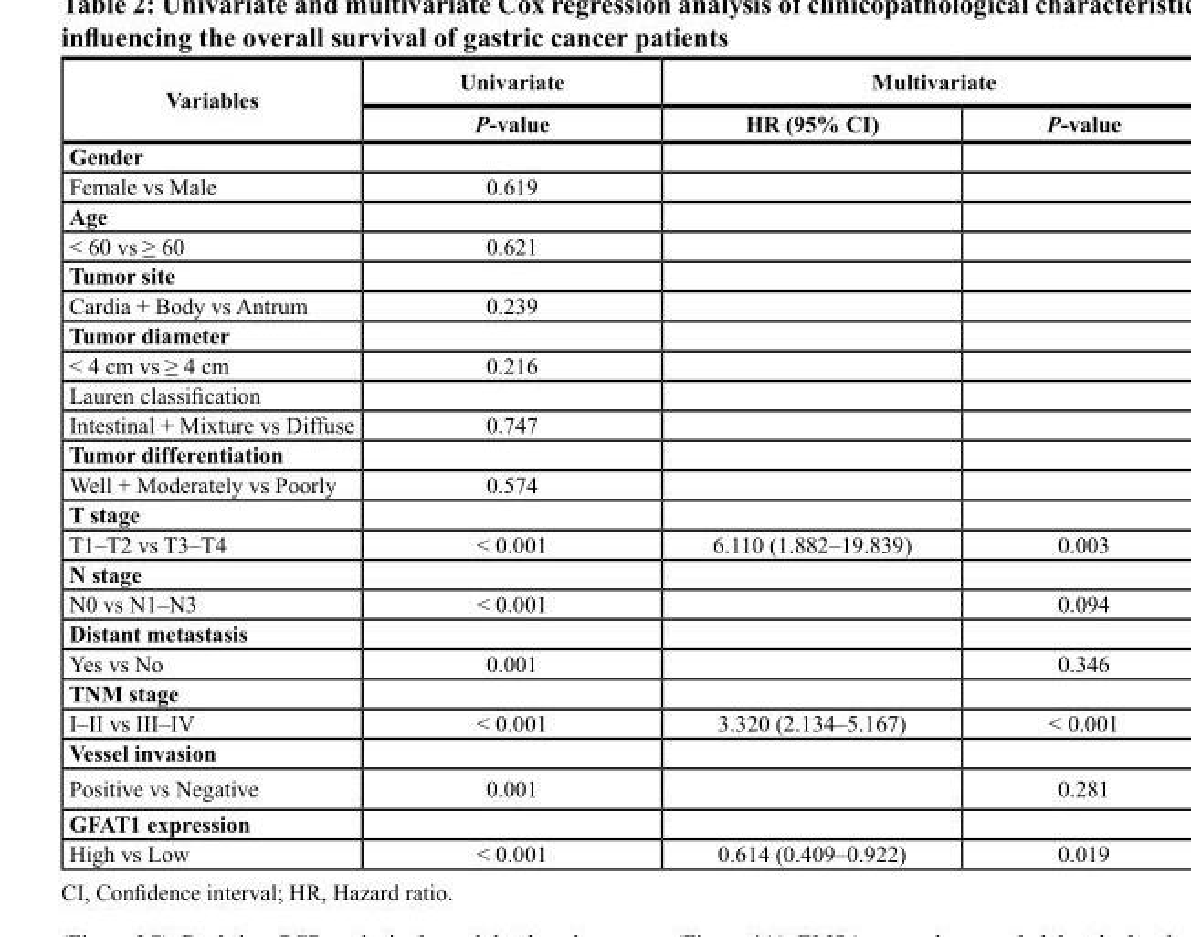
<table><thead><tr><td rowspan="2">Variables</td><td rowspan="2">univariate P-value</td><td colspan="2">Multivariate</td></tr><tr><td>Hr (95% cI)</td><td>P-value</td></tr></thead><tbody><tr><td colspan="4">Gender</td></tr><tr><td>Female vs Male</td><td>0.619</td><td></td><td></td></tr><tr><td colspan="4">Age</td></tr><tr><td>&lt; 60 vs ≥ 60</td><td>0.621</td><td></td><td></td></tr><tr><td colspan="4">tumor site</td></tr><tr><td>Cardia + Body vs Antrum</td><td>0.239</td><td></td><td></td></tr><tr><td colspan="4">tumor diameter</td></tr><tr><td>&lt; 4 cm vs ≥ 4 cm</td><td>0.216</td><td></td><td></td></tr><tr><td colspan="4">Lauren classification</td></tr><tr><td>Intestinal + Mixture vs Diffuse</td><td>0.747</td><td></td><td></td></tr><tr><td colspan="4">tumor differentiation</td></tr><tr><td>Well + Moderately vs Poorly</td><td>0.574</td><td></td><td></td></tr><tr><td colspan="4">t stage</td></tr><tr><td>T1–T2 vs T3–T4</td><td>&lt; 0.001</td><td>6.110 (1.882–19.839)</td><td>0.003</td></tr><tr><td colspan="4">n stage</td></tr><tr><td>N0 vs N1–N3</td><td>&lt; 0.001</td><td></td><td>0.094</td></tr><tr><td colspan="4">distant metastasis</td></tr><tr><td>Yes vs No</td><td>0.001</td><td></td><td>0.346</td></tr><tr><td colspan="4">tnM stage</td></tr><tr><td>I–II vs III–IV</td><td>&lt; 0.001</td><td>3.320 (2.134–5.167)</td><td>&lt; 0.001</td></tr><tr><td colspan="4">Vessel invasion</td></tr><tr><td>Positive vs Negative</td><td>0.001</td><td></td><td>0.281</td></tr><tr><td colspan="4">GFAt1 expression</td></tr><tr><td>High vs Low</td><td>&lt; 0.001</td><td>0.614 (0.409–0.922)</td><td>0.019</td></tr></tbody></table>